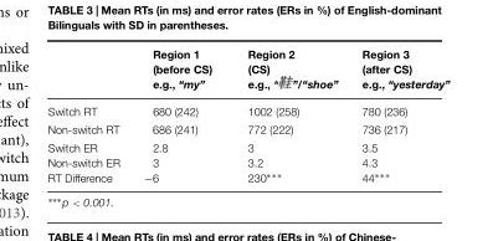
<table><thead><tr><td></td><td>Region 1 (before CS) e.g., “my”</td><td>Region 2 (CS) e.g., “ ”/“shoe”</td><td>Region 3 (after CS) e.g., “yesterday”</td></tr></thead><tbody><tr><td>Switch RT</td><td>680 (242)</td><td>1002 (258)</td><td>780 (236)</td></tr><tr><td>Non-switch RT</td><td>686 (241)</td><td>772 (222)</td><td>736 (217)</td></tr><tr><td>Switch ER Non-switch ER RT Difference</td><td>2.8 3 −6</td><td>3 3.2 230∗∗∗</td><td>3.5 4.3 44∗∗∗</td></tr></tbody></table>